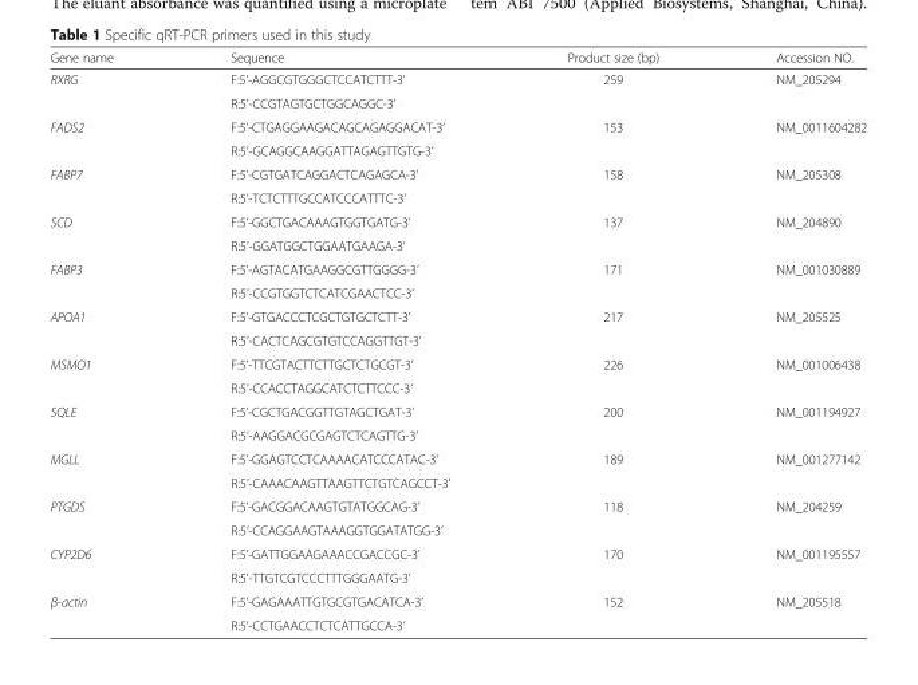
<table><thead><tr><td>Gene name</td><td>Sequence</td><td>Product size (bp)</td><td>Accession NO.</td></tr></thead><tbody><tr><td rowspan="2">RXRG</td><td>F:5’-AGGCGTGGGCTCCATCTTT-3’</td><td rowspan="2">259</td><td rowspan="2">NM_205294</td></tr><tr><td>R:5’-CCGTAGTGCTGGCAGGC-3’</td></tr><tr><td rowspan="2">FADS2</td><td>F:5’-CTGAGGAAGACAGCAGAGGACAT-3’</td><td rowspan="2">153</td><td rowspan="2">NM_0011604282</td></tr><tr><td>R:5’-GCAGGCAAGGATTAGAGTTGTG-3’</td></tr><tr><td rowspan="2">FABP7</td><td>F:5’-CGTGATCAGGACTCAGAGCA-3’</td><td rowspan="2">158</td><td rowspan="2">NM_205308</td></tr><tr><td>R:5’-TCTCTTTGCCATCCCATTTC-3’</td></tr><tr><td rowspan="2">SCD</td><td>F:5’-GGCTGACAAAGTGGTGATG-3’</td><td rowspan="2">137</td><td rowspan="2">NM_204890</td></tr><tr><td>R:5’-GGATGGCTGGAATGAAGA-3’</td></tr><tr><td rowspan="2">FABP3</td><td>F:5’-AGTACATGAAGGCGTTGGGG-3’</td><td rowspan="2">171</td><td rowspan="2">NM_001030889</td></tr><tr><td>R:5’-CCGTGGTCTCATCGAACTCC-3’</td></tr><tr><td rowspan="2">APOA1</td><td>F:5’-GTGACCCTCGCTGTGCTCTT-3’</td><td rowspan="2">217</td><td rowspan="2">NM_205525</td></tr><tr><td>R:5’-CACTCAGCGTGTCCAGGTTGT-3’</td></tr><tr><td rowspan="2">MSMO1</td><td>F:5’-TTCGTACTTCTTGCTCTGCGT-3’</td><td rowspan="2">226</td><td rowspan="2">NM_001006438</td></tr><tr><td>R:5’-CCACCTAGGCATCTCTTCCC-3’</td></tr><tr><td rowspan="2">SQLE</td><td>F:5’-CGCTGACGGTTGTAGCTGAT-3’</td><td rowspan="2">200</td><td rowspan="2">NM_001194927</td></tr><tr><td>R:5’-AAGGACGCGAGTCTCAGTTG-3’</td></tr><tr><td rowspan="2">MGLL</td><td>F:5’-GGAGTCCTCAAAACATCCCATAC-3’</td><td rowspan="2">189</td><td rowspan="2">NM_001277142</td></tr><tr><td>R:5’-CAAACAAGTTAAGTTCTGTCAGCCT-3’</td></tr><tr><td rowspan="2">PTGDS</td><td>F:5’-GACGGACAAGTGTATGGCAG-3’</td><td rowspan="2">118</td><td rowspan="2">NM_204259</td></tr><tr><td>R:5’-CCAGGAAGTAAAGGTGGATATGG-3’</td></tr><tr><td rowspan="2">CYP2D6</td><td>F:5’-GATTGGAAGAAACCGACCGC-3’</td><td rowspan="2">170</td><td rowspan="2">NM_001195557</td></tr><tr><td>R:5’-TTGTCGTCCCTTTGGGAATG-3’</td></tr><tr><td rowspan="2">β-actin</td><td>F:5’-GAGAAATTGTGCGTGACATCA-3’</td><td rowspan="2">152</td><td rowspan="2">NM_205518</td></tr><tr><td>R:5’-CCTGAACCTCTCATTGCCA-3’</td></tr></tbody></table>